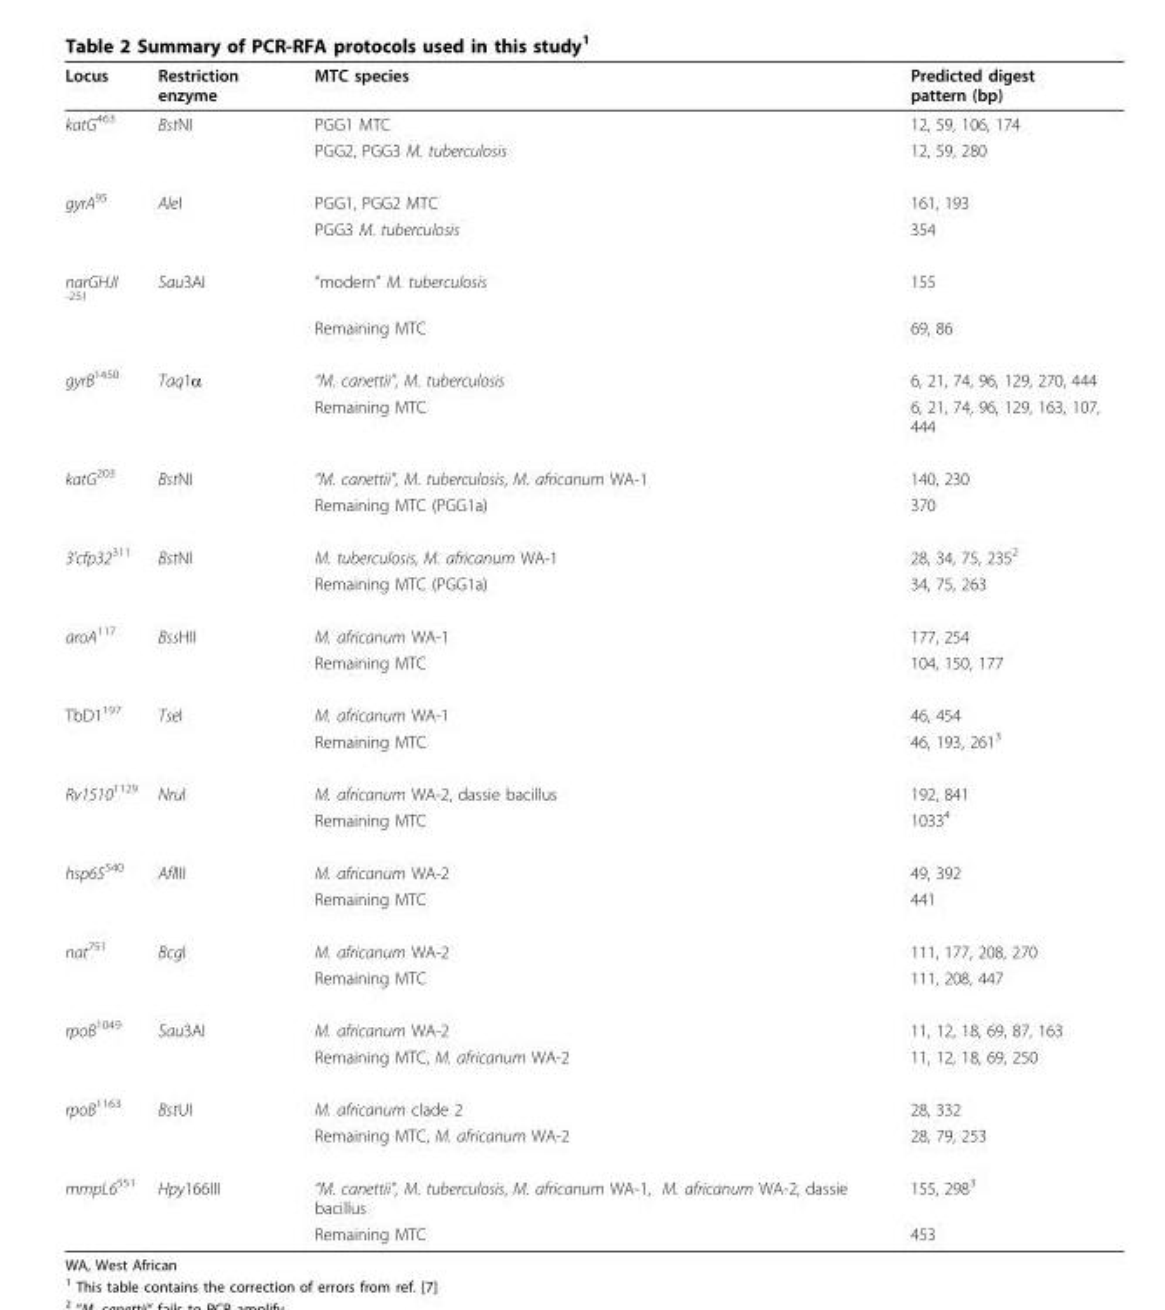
<table><thead><tr><td>Locus</td><td>Restriction enzyme</td><td>MTC species</td><td>Predicted digest pattern (bp)</td></tr></thead><tbody><tr><td rowspan="2">katG<sup>463</sup></td><td>BstNI</td><td>PGG1 MTC</td><td>12, 59, 106, 174</td></tr><tr><td></td><td>PGG2, PGG3 M. tuberculosis</td><td>12, 59, 280</td></tr><tr><td rowspan="2">gyrA<sup>95</sup></td><td>AleI</td><td>PGG1, PGG2 MTC</td><td>161, 193</td></tr><tr><td></td><td>PGG3 M. tuberculosis</td><td>354</td></tr><tr><td rowspan="2">narGHJI <sup>-251</sup></td><td>Sau3AI</td><td>“modern” M. tuberculosis</td><td>155</td></tr><tr><td></td><td>Remaining MTC</td><td>69, 86</td></tr><tr><td rowspan="2">gyrB<sup>1450</sup></td><td>Taq1α</td><td>“M. canettii”, M. tuberculosis</td><td>6, 21, 74, 96, 129, 270, 444</td></tr><tr><td></td><td>Remaining MTC</td><td>6, 21, 74, 96, 129, 163, 107, 444</td></tr><tr><td rowspan="2">katG<sup>203</sup></td><td>BstNI</td><td>“M. canettii”, M. tuberculosis, M. africanum WA-1</td><td>140, 230</td></tr><tr><td></td><td>Remaining MTC (PGG1a)</td><td>370</td></tr><tr><td rowspan="2">3’cfp32<sup>311</sup></td><td>BstNI</td><td>M. tuberculosis, M. africanum WA-1</td><td>28, 34, 75, 235<sup>2</sup></td></tr><tr><td></td><td>Remaining MTC (PGG1a)</td><td>34, 75, 263</td></tr><tr><td rowspan="2">aroA<sup>117</sup></td><td>BssHII</td><td>M. africanum WA-1</td><td>177, 254</td></tr><tr><td></td><td>Remaining MTC</td><td>104, 150, 177</td></tr><tr><td rowspan="2">TbD1<sup>197</sup></td><td>TseI</td><td>M. africanum WA-1</td><td>46, 454</td></tr><tr><td></td><td>Remaining MTC</td><td>46, 193, 261<sup>3</sup></td></tr><tr><td rowspan="2">Rv1510<sup>1129</sup></td><td>NruI</td><td>M. africanum WA-2, dassie bacillus</td><td>192, 841</td></tr><tr><td></td><td>Remaining MTC</td><td>1033<sup>4</sup></td></tr><tr><td rowspan="2">hsp65<sup>540</sup></td><td>AflIII</td><td>M. africanum WA-2</td><td>49, 392</td></tr><tr><td></td><td>Remaining MTC</td><td>441</td></tr><tr><td rowspan="2">nat<sup>751</sup></td><td>BcgI</td><td>M. africanum WA-2</td><td>111, 177, 208, 270</td></tr><tr><td></td><td>Remaining MTC</td><td>111, 208, 447</td></tr><tr><td rowspan="2">rpoB<sup>1049</sup></td><td>Sau3AI</td><td>M. africanum WA-2</td><td>11, 12, 18, 69, 87, 163</td></tr><tr><td></td><td>Remaining MTC, M. africanum WA-2</td><td>11, 12, 18, 69, 250</td></tr><tr><td rowspan="2">rpoB<sup>1163</sup></td><td>BstUI</td><td>M. africanum clade 2</td><td>28, 332</td></tr><tr><td></td><td>Remaining MTC, M. africanum WA-2</td><td>28, 79, 253</td></tr><tr><td rowspan="2">mmpL6<sup>551</sup></td><td>Hpy166III</td><td>“M. canettii”, M. tuberculosis, M. africanum WA-1, M. africanum WA-2, dassie bacillus</td><td>155, 298<sup>3</sup></td></tr><tr><td></td><td>Remaining MTC</td><td>453</td></tr></tbody></table>